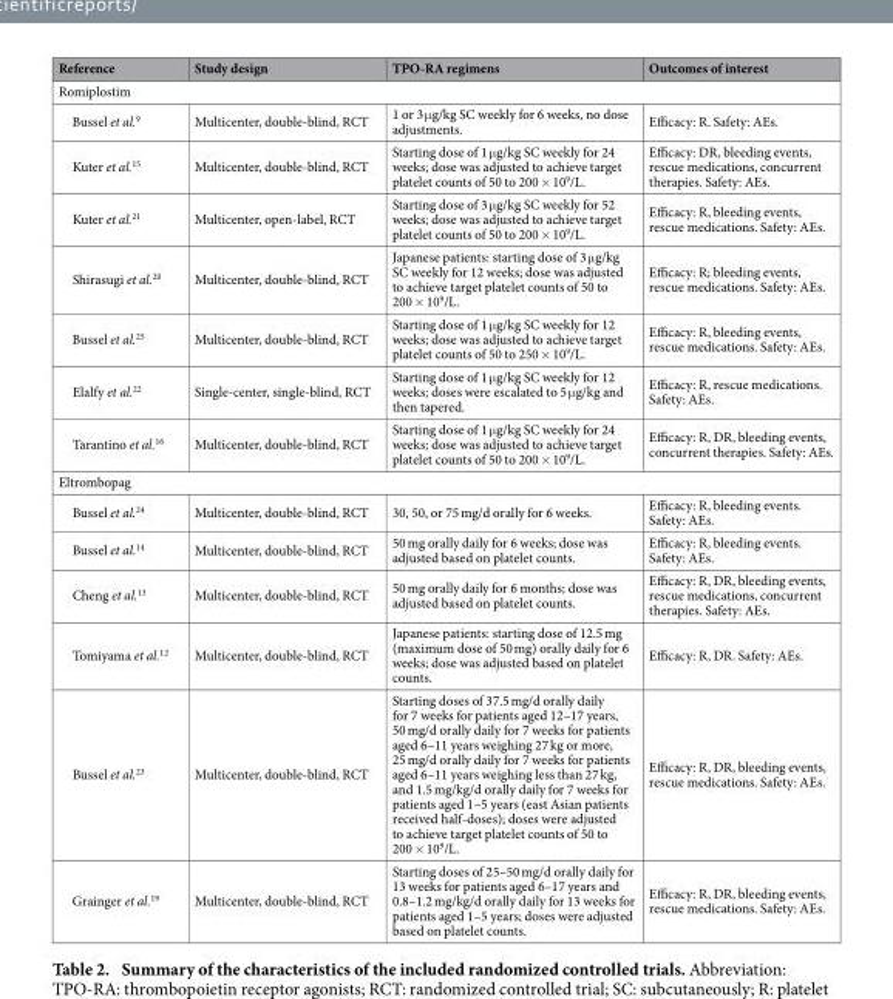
<table><thead><tr><td>Reference</td><td>Study design</td><td>TPO-RA regimens</td><td>Outcomes of interest</td></tr></thead><tbody><tr><td colspan="4">Romiplostim</td></tr><tr><td>Bussel et al.<sup>9</sup></td><td>Multicenter, double-blind, RCT</td><td>1 or 3 μ g/kg SC weekly for 6 weeks, no dose adjustments.</td><td>Efficacy: R. Safety: AEs.</td></tr><tr><td>Kuter et al.<sup>15</sup></td><td>Multicenter, double-blind, RCT</td><td>Starting dose of 1 μ g/kg SC weekly for 24 weeks; dose was adjusted to achieve target platelet counts of 50 to 200 × 10<sup>9</sup>/L.</td><td>Efficacy: DR, bleeding events, rescue medications, concurrent therapies. Safety: AEs.</td></tr><tr><td>Kuter et al.<sup>21</sup></td><td>Multicenter, open-label, RCT</td><td>Starting dose of 3 μ g/kg SC weekly for 52 weeks; dose was adjusted to achieve target platelet counts of 50 to 200 × 10<sup>9</sup>/L.</td><td>Efficacy: R, bleeding events, rescue medications. Safety: AEs.</td></tr><tr><td>Shirasugi et al.<sup>20</sup></td><td>Multicenter, double-blind, RCT</td><td>Japanese patients: starting dose of 3 μ g/kg SC weekly for 12 weeks; dose was adjusted to achieve target platelet counts of 50 to 200 × 10<sup>9</sup>/L.</td><td>Efficacy: R; bleeding events, rescue medications. Safety: AEs.</td></tr><tr><td>Bussel et al.<sup>25</sup></td><td>Multicenter, double-blind, RCT</td><td>Starting dose of 1 μ g/kg SC weekly for 12 weeks; dose was adjusted to achieve target platelet counts of 50 to 250 × 10<sup>9</sup>/L.</td><td>Efficacy: R, bleeding events, rescue medications. Safety: AEs.</td></tr><tr><td>Elalfy et al.<sup>22</sup></td><td>Single-center, single-blind, RCT</td><td>Starting dose of 1 μ g/kg SC weekly for 12 weeks; doses were escalated to 5 μ g/kg and then tapered.</td><td>Efficacy: R, rescue medications. Safety: AEs.</td></tr><tr><td>Tarantino et al.<sup>16</sup></td><td>Multicenter, double-blind, RCT</td><td>Starting dose of 1 μ g/kg SC weekly for 24 weeks; dose was adjusted to achieve target platelet counts of 50 to 200 × 10<sup>9</sup>/L.</td><td>Efficacy: R, DR, bleeding events, concurrent therapies. Safety: AEs.</td></tr><tr><td colspan="4">Eltrombopag</td></tr><tr><td>Bussel et al.<sup>24</sup></td><td>Multicenter, double-blind, RCT</td><td>30, 50, or 75 mg/d orally for 6 weeks.</td><td>Efficacy: R, bleeding events. Safety: AEs.</td></tr><tr><td>Bussel et al.<sup>14</sup></td><td>Multicenter, double-blind, RCT</td><td>50 mg orally daily for 6 weeks; dose was adjusted based on platelet counts.</td><td>Efficacy: R, bleeding events. Safety: AEs.</td></tr><tr><td>Cheng et al.<sup>13</sup></td><td>Multicenter, double-blind, RCT</td><td>50 mg orally daily for 6 months; dose was adjusted based on platelet counts.</td><td>Efficacy: R, DR, bleeding events, rescue medications, concurrent therapies. Safety: AEs.</td></tr><tr><td>Tomiyama et al.<sup>12</sup></td><td>Multicenter, double-blind, RCT</td><td>Japanese patients: starting dose of 12.5 mg (maximum dose of 50 mg) orally daily for 6 weeks; dose was adjusted based on platelet counts.</td><td>Efficacy: R, DR. Safety: AEs.</td></tr><tr><td>Bussel et al.<sup>23</sup></td><td>Multicenter, double-blind, RCT</td><td>Starting doses of 37.5 mg/d orally daily for 7 weeks for patients aged 12–17 years, 50 mg/d orally daily for 7 weeks for patients aged 6–11 years weighing 27 kg or more, 25 mg/d orally daily for 7 weeks for patients aged 6–11 years weighing less than 27 kg, and 1.5 mg/kg/d orally daily for 7 weeks for patients aged 1–5 years (east Asian patients received half-doses); doses were adjusted to achieve target platelet counts of 50 to 200 × 10<sup>9</sup>/L.</td><td>Efficacy: R, DR, bleeding events, rescue medications. Safety: AEs.</td></tr><tr><td>Grainger et al.<sup>19</sup></td><td>Multicenter, double-blind, RCT</td><td>Starting doses of 25–50 mg/d orally daily for 13 weeks for patients aged 6–17 years and 0.8–1.2 mg/kg/d orally daily for 13 weeks for patients aged 1–5 years; doses were adjusted based on platelet counts.</td><td>Efficacy: R, DR, bleeding events, rescue medications. Safety: AEs.</td></tr></tbody></table>